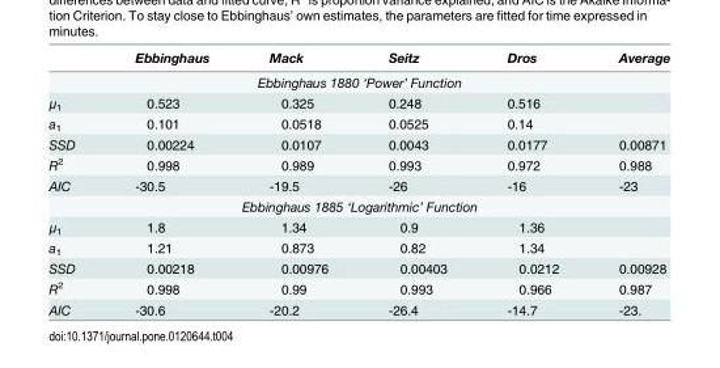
<table><thead><tr><td></td><td>Ebbinghaus</td><td>Mack</td><td>Seitz</td><td>Dros</td><td>Average</td></tr></thead><tbody><tr><td colspan="6">Ebbinghaus 1880 ‘Power’ Function</td></tr><tr><td>μ<sub>1</sub></td><td>0.523</td><td>0.325</td><td>0.248</td><td>0.516</td><td></td></tr><tr><td>a<sub>1</sub></td><td>0.101</td><td>0.0518</td><td>0.0525</td><td>0.14</td><td></td></tr><tr><td>SSD</td><td>0.00224</td><td>0.0107</td><td>0.0043</td><td>0.0177</td><td>0.00871</td></tr><tr><td>R<sup>2</sup></td><td>0.998</td><td>0.989</td><td>0.993</td><td>0.972</td><td>0.988</td></tr><tr><td>AIC</td><td>-30.5</td><td>-19.5</td><td>-26</td><td>-16</td><td>-23</td></tr><tr><td colspan="6">Ebbinghaus 1885 ‘Logarithmic’ Function</td></tr><tr><td>μ<sub>1</sub></td><td>1.8</td><td>1.34</td><td>0.9</td><td>1.36</td><td></td></tr><tr><td>a<sub>1</sub></td><td>1.21</td><td>0.873</td><td>0.82</td><td>1.34</td><td></td></tr><tr><td>SSD</td><td>0.00218</td><td>0.00976</td><td>0.00403</td><td>0.0212</td><td>0.00928</td></tr><tr><td>R<sup>2</sup></td><td>0.998</td><td>0.99</td><td>0.993</td><td>0.966</td><td>0.987</td></tr><tr><td>AIC</td><td>-30.6</td><td>-20.2</td><td>-26.4</td><td>-14.7</td><td>-23.</td></tr></tbody></table>